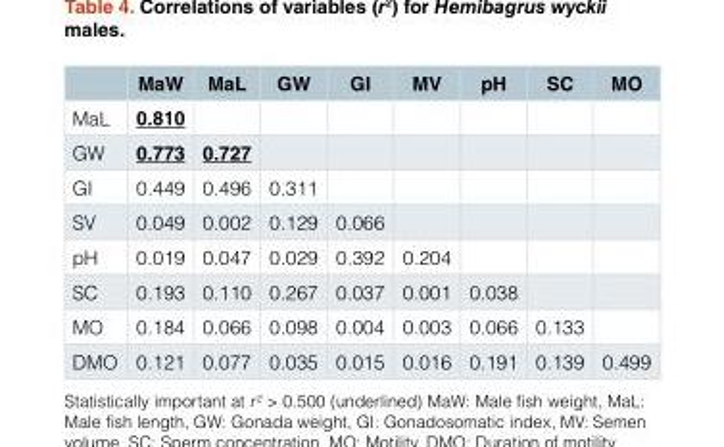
<table><thead><tr><td></td><td>MaW</td><td>MaL</td><td>GW</td><td>GI</td><td>MV</td><td>pH</td><td>SC</td><td>MO</td></tr></thead><tbody><tr><td>MaL</td><td>0.810</td><td></td><td></td><td></td><td></td><td></td><td></td><td></td></tr><tr><td>GW</td><td>0.773</td><td>0.727</td><td></td><td></td><td></td><td></td><td></td><td></td></tr><tr><td>GI</td><td>0.449</td><td>0.496</td><td>0.311</td><td></td><td></td><td></td><td></td><td></td></tr><tr><td>SV</td><td>0.049</td><td>0.002</td><td>0.129</td><td>0.066</td><td></td><td></td><td></td><td></td></tr><tr><td>pH</td><td>0.019</td><td>0.047</td><td>0.029</td><td>0.392</td><td>0.204</td><td></td><td></td><td></td></tr><tr><td>SC</td><td>0.193</td><td>0.110</td><td>0.267</td><td>0.037</td><td>0.001</td><td>0.038</td><td></td><td></td></tr><tr><td>MO</td><td>0.184</td><td>0.066</td><td>0.098</td><td>0.004</td><td>0.003</td><td>0.066</td><td>0.133</td><td></td></tr><tr><td>DMO</td><td>0.121</td><td>0.077</td><td>0.035</td><td>0.015</td><td>0.016</td><td>0.191</td><td>0.139</td><td>0.499</td></tr></tbody></table>